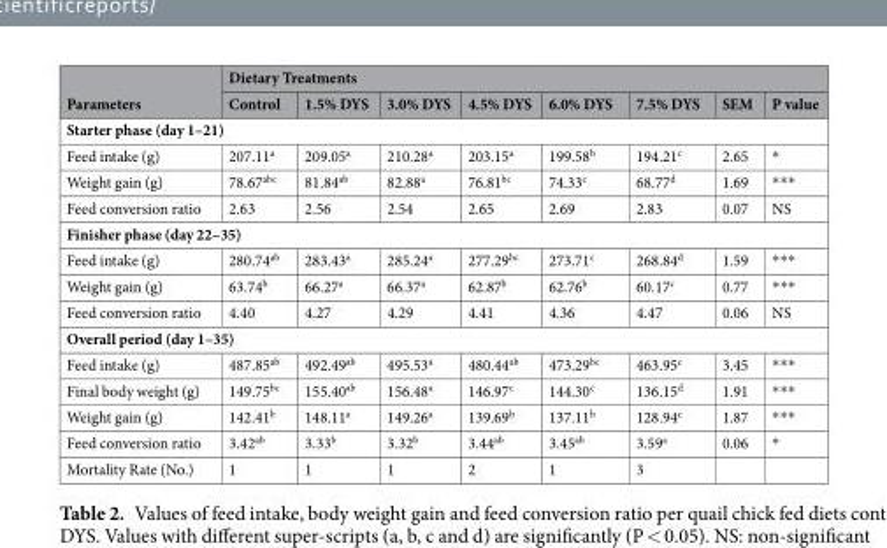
<table><thead><tr><td rowspan="2">Parameters</td><td colspan="8">Dietary Treatments</td></tr><tr><td>Control</td><td>1.5% DYS</td><td>3.0% DYS</td><td>4.5% DYS</td><td>6.0% DYS</td><td>7.5% DYS</td><td>SEM</td><td>P value</td></tr></thead><tbody><tr><td colspan="9">Starter phase (day 1–21)</td></tr><tr><td>Feed intake (g)</td><td>207.11<sup>a</sup></td><td>209.05<sup>a</sup></td><td>210.28<sup>a</sup></td><td>203.15<sup>a</sup></td><td>199.58<sup>b</sup></td><td>194.21<sup>c</sup></td><td>2.65</td><td>*</td></tr><tr><td>Weight gain (g)</td><td>78.67<sup>abc</sup></td><td>81.84<sup>ab</sup></td><td>82.88<sup>a</sup></td><td>76.81<sup>bc</sup></td><td>74.33<sup>c</sup></td><td>68.77<sup>d</sup></td><td>1.69</td><td>***</td></tr><tr><td>Feed conversion ratio</td><td>2.63</td><td>2.56</td><td>2.54</td><td>2.65</td><td>2.69</td><td>2.83</td><td>0.07</td><td>NS</td></tr><tr><td colspan="9">Finisher phase (day 22–35)</td></tr><tr><td>Feed intake (g)</td><td>280.74<sup>ab</sup></td><td>283.43<sup>a</sup></td><td>285.24<sup>a</sup></td><td>277.29<sup>bc</sup></td><td>273.71<sup>c</sup></td><td>268.84<sup>d</sup></td><td>1.59</td><td>***</td></tr><tr><td>Weight gain (g)</td><td>63.74<sup>b</sup></td><td>66.27<sup>a</sup></td><td>66.37<sup>a</sup></td><td>62.87<sup>b</sup></td><td>62.76<sup>b</sup></td><td>60.17<sup>c</sup></td><td>0.77</td><td>***</td></tr><tr><td>Feed conversion ratio</td><td>4.40</td><td>4.27</td><td>4.29</td><td>4.41</td><td>4.36</td><td>4.47</td><td>0.06</td><td>NS</td></tr><tr><td colspan="9">Overall period (day 1–35)</td></tr><tr><td>Feed intake (g)</td><td>487.85<sup>ab</sup></td><td>492.49<sup>ab</sup></td><td>495.53<sup>a</sup></td><td>480.44<sup>ab</sup></td><td>473.29<sup>bc</sup></td><td>463.95<sup>c</sup></td><td>3.45</td><td>***</td></tr><tr><td>Final body weight (g)</td><td>149.75<sup>bc</sup></td><td>155.40<sup>ab</sup></td><td>156.48<sup>a</sup></td><td>146.97<sup>c</sup></td><td>144.30<sup>c</sup></td><td>136.15<sup>d</sup></td><td>1.91</td><td>***</td></tr><tr><td>Weight gain (g)</td><td>142.41<sup>b</sup></td><td>148.11<sup>a</sup></td><td>149.26<sup>a</sup></td><td>139.69<sup>b</sup></td><td>137.11<sup>b</sup></td><td>128.94<sup>c</sup></td><td>1.87</td><td>***</td></tr><tr><td>Feed conversion ratio</td><td>3.42<sup>ab</sup></td><td>3.33<sup>b</sup></td><td>3.32<sup>b</sup></td><td>3.44<sup>ab</sup></td><td>3.45<sup>ab</sup></td><td>3.59<sup>a</sup></td><td>0.06</td><td>*</td></tr><tr><td>Mortality Rate (No.)</td><td>1</td><td>1</td><td>1</td><td>2</td><td>1</td><td>3</td><td></td><td></td></tr></tbody></table>